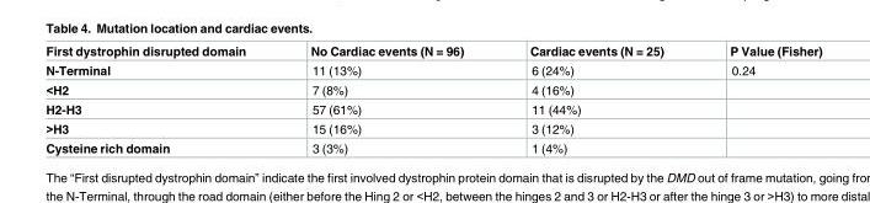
<table><thead><tr><td>First dystrophin disrupted domain</td><td>No Cardiac events (N = 96)</td><td>Cardiac events (N = 25)</td><td>P Value (Fisher)</td></tr></thead><tbody><tr><td>N-Terminal</td><td>11 (13%)</td><td>6 (24%)</td><td>0.24</td></tr><tr><td>&lt;H2</td><td>7 (8%)</td><td>4 (16%)</td><td></td></tr><tr><td>H2-H3</td><td>57 (61%)</td><td>11 (44%)</td><td></td></tr><tr><td>&gt;H3</td><td>15 (16%)</td><td>3 (12%)</td><td></td></tr><tr><td>Cysteine rich domain</td><td>3 (3%)</td><td>1 (4%)</td><td></td></tr></tbody></table>